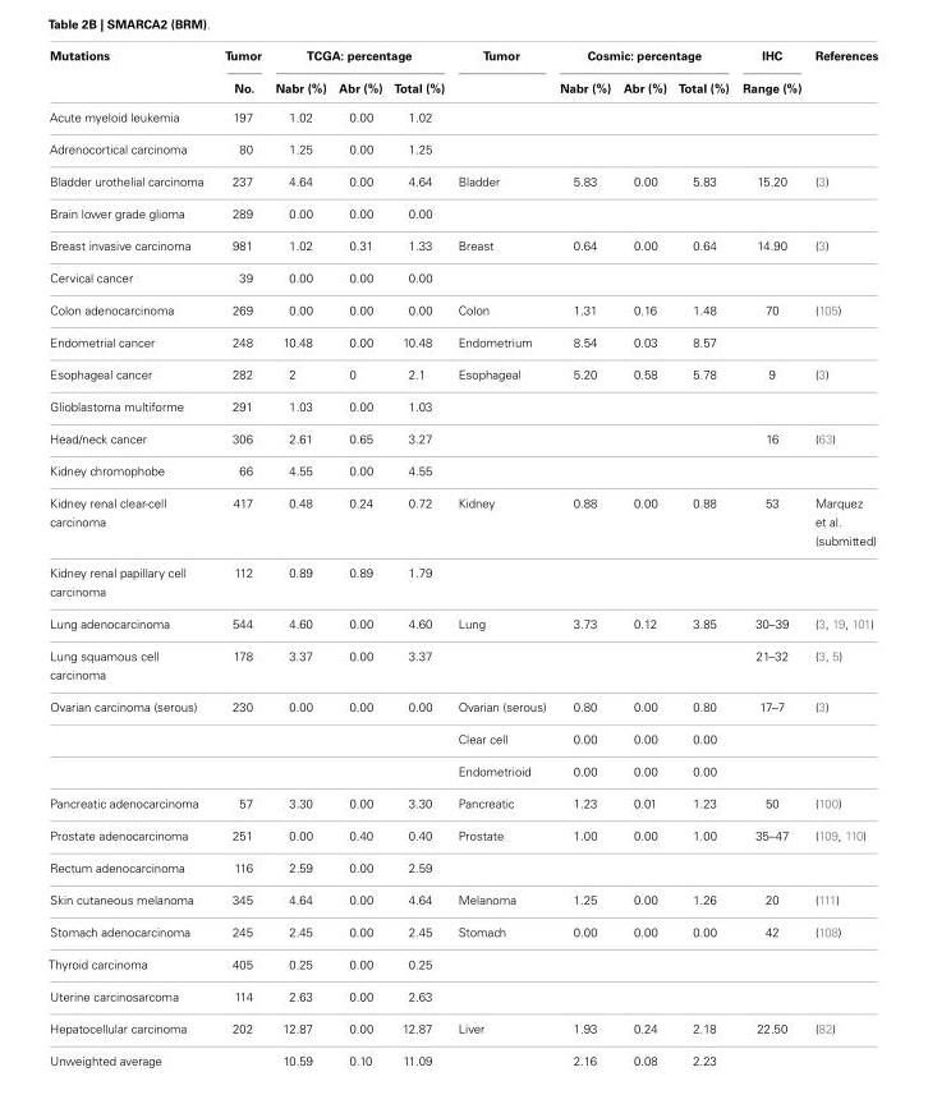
<table><thead><tr><td rowspan="2">Mutations</td><td rowspan="2">Tumor No.</td><td colspan="3">TCGA: percentage</td><td rowspan="2">Tumor</td><td colspan="3">Cosmic: percentage</td><td rowspan="2">IHC Range (%)</td><td rowspan="2">References</td></tr><tr><td>Nabr (%)</td><td>Abr (%)</td><td>Total (%)</td><td>Nabr (%)</td><td>Abr (%)</td><td>Total (%)</td></tr></thead><tbody><tr><td>Acute myeloid leukemia</td><td>197</td><td>1.02</td><td>0.00</td><td>1.02</td><td></td><td></td><td></td><td></td><td></td><td></td></tr><tr><td>Adrenocortical carcinoma</td><td>80</td><td>1.25</td><td>0.00</td><td>1.25</td><td></td><td></td><td></td><td></td><td></td><td></td></tr><tr><td>Bladder urothelial carcinoma</td><td>237</td><td>4.64</td><td>0.00</td><td>4.64</td><td>Bladder</td><td>5.83</td><td>0.00</td><td>5.83</td><td>15.20</td><td>(3)</td></tr><tr><td>Brain lower grade glioma</td><td>289</td><td>0.00</td><td>0.00</td><td>0.00</td><td></td><td></td><td></td><td></td><td></td><td></td></tr><tr><td>Breast invasive carcinoma</td><td>981</td><td>1.02</td><td>0.31</td><td>1.33</td><td>Breast</td><td>0.64</td><td>0.00</td><td>0.64</td><td>14.90</td><td>(3)</td></tr><tr><td>Cervical cancer</td><td>39</td><td>0.00</td><td>0.00</td><td>0.00</td><td></td><td></td><td></td><td></td><td></td><td></td></tr><tr><td>Colon adenocarcinoma</td><td>269</td><td>0.00</td><td>0.00</td><td>0.00</td><td>Colon</td><td>1.31</td><td>0.16</td><td>1.48</td><td>70</td><td>(105)</td></tr><tr><td>Endometrial cancer</td><td>248</td><td>10.48</td><td>0.00</td><td>10.48</td><td>Endometrium</td><td>8.54</td><td>0.03</td><td>8.57</td><td></td><td></td></tr><tr><td>Esophageal cancer</td><td>282</td><td>2</td><td>0</td><td>2.1</td><td>Esophageal</td><td>5.20</td><td>0.58</td><td>5.78</td><td>9</td><td>(3)</td></tr><tr><td>Glioblastoma multiforme</td><td>291</td><td>1.03</td><td>0.00</td><td>1.03</td><td></td><td></td><td></td><td></td><td></td><td></td></tr><tr><td>Head/neck cancer</td><td>306</td><td>2.61</td><td>0.65</td><td>3.27</td><td></td><td></td><td></td><td></td><td>16</td><td>(63)</td></tr><tr><td>Kidney chromophobe</td><td>66</td><td>4.55</td><td>0.00</td><td>4.55</td><td></td><td></td><td></td><td></td><td></td><td></td></tr><tr><td>Kidney renal clear-cell carcinoma</td><td>417</td><td>0.48</td><td>0.24</td><td>0.72</td><td>Kidney</td><td>0.88</td><td>0.00</td><td>0.88</td><td>53</td><td>Marquez et al. (submitted)</td></tr><tr><td>Kidney renal papillary cell carcinoma</td><td>112</td><td>0.89</td><td>0.89</td><td>1.79</td><td></td><td></td><td></td><td></td><td></td><td></td></tr><tr><td>Lung adenocarcinoma</td><td>544</td><td>4.60</td><td>0.00</td><td>4.60</td><td>Lung</td><td>3.73</td><td>0.12</td><td>3.85</td><td>30–39</td><td>(3, 19, 101)</td></tr><tr><td>Lung squamous cell carcinoma</td><td>178</td><td>3.37</td><td>0.00</td><td>3.37</td><td></td><td></td><td></td><td></td><td>21–32</td><td>(3, 5)</td></tr><tr><td rowspan="3">Ovarian carcinoma (serous)</td><td>230</td><td>0.00</td><td>0.00</td><td>0.00</td><td>Ovarian (serous)</td><td>0.80</td><td>0.00</td><td>0.80</td><td>17–7</td><td>(3)</td></tr><tr><td></td><td></td><td></td><td></td><td>Clear cell</td><td>0.00</td><td>0.00</td><td>0.00</td><td></td><td></td></tr><tr><td></td><td></td><td></td><td></td><td>Endometrioid</td><td>0.00</td><td>0.00</td><td>0.00</td><td></td><td></td></tr><tr><td>Pancreatic adenocarcinoma</td><td>57</td><td>3.30</td><td>0.00</td><td>3.30</td><td>Pancreatic</td><td>1.23</td><td>0.01</td><td>1.23</td><td>50</td><td>(100)</td></tr><tr><td>Prostate adenocarcinoma</td><td>251</td><td>0.00</td><td>0.40</td><td>0.40</td><td>Prostate</td><td>1.00</td><td>0.00</td><td>1.00</td><td>35–47</td><td>(109, 110)</td></tr><tr><td>Rectum adenocarcinoma</td><td>116</td><td>2.59</td><td>0.00</td><td>2.59</td><td></td><td></td><td></td><td></td><td></td><td></td></tr><tr><td>Skin cutaneous melanoma</td><td>345</td><td>4.64</td><td>0.00</td><td>4.64</td><td>Melanoma</td><td>1.25</td><td>0.00</td><td>1.26</td><td>20</td><td>(111)</td></tr><tr><td>Stomach adenocarcinoma</td><td>245</td><td>2.45</td><td>0.00</td><td>2.45</td><td>Stomach</td><td>0.00</td><td>0.00</td><td>0.00</td><td>42</td><td>(108)</td></tr><tr><td>Thyroid carcinoma</td><td>405</td><td>0.25</td><td>0.00</td><td>0.25</td><td></td><td></td><td></td><td></td><td></td><td></td></tr><tr><td>Uterine carcinosarcoma</td><td>114</td><td>2.63</td><td>0.00</td><td>2.63</td><td></td><td></td><td></td><td></td><td></td><td></td></tr><tr><td>Hepatocellular carcinoma</td><td>202</td><td>12.87</td><td>0.00</td><td>12.87</td><td>Liver</td><td>1.93</td><td>0.24</td><td>2.18</td><td>22.50</td><td>(82)</td></tr><tr><td>Unweighted average</td><td></td><td>10.59</td><td>0.10</td><td>11.09</td><td></td><td>2.16</td><td>0.08</td><td>2.23</td><td></td><td></td></tr></tbody></table>